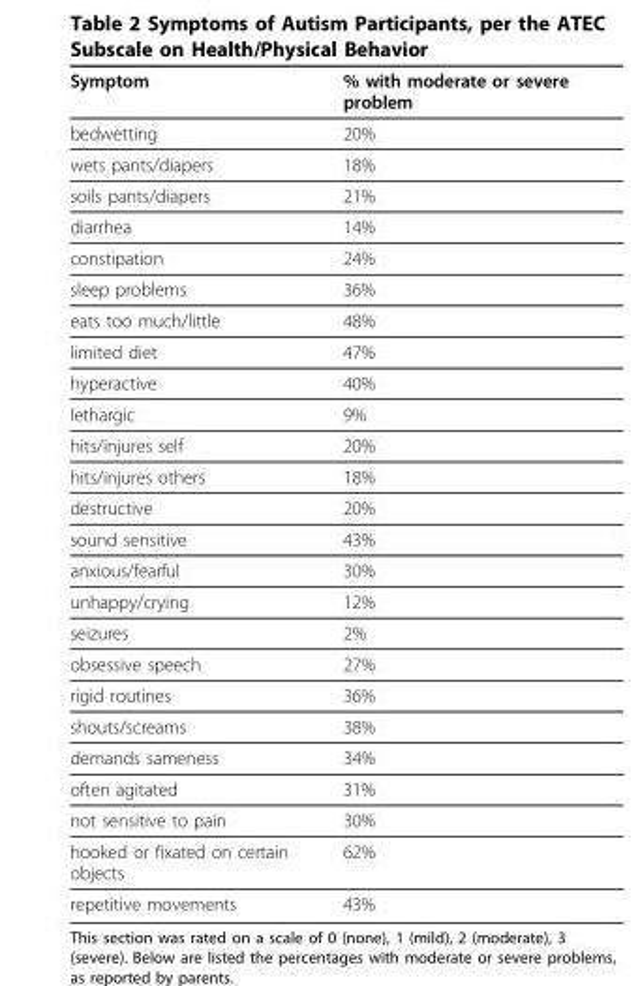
<table><thead><tr><td>Symptom</td><td>% with moderate or severe problem</td></tr></thead><tbody><tr><td>bedwetting</td><td>20%</td></tr><tr><td>wets pants/diapers</td><td>18%</td></tr><tr><td>soils pants/diapers</td><td>21%</td></tr><tr><td>diarrhea</td><td>14%</td></tr><tr><td>constipation</td><td>24%</td></tr><tr><td>sleep problems</td><td>36%</td></tr><tr><td>eats too much/little</td><td>48%</td></tr><tr><td>limited diet</td><td>47%</td></tr><tr><td>hyperactive</td><td>40%</td></tr><tr><td>lethargic</td><td>9%</td></tr><tr><td>hits/injures self</td><td>20%</td></tr><tr><td>hits/injures others</td><td>18%</td></tr><tr><td>destructive</td><td>20%</td></tr><tr><td>sound sensitive</td><td>43%</td></tr><tr><td>anxious/fearful</td><td>30%</td></tr><tr><td>unhappy/crying</td><td>12%</td></tr><tr><td>seizures</td><td>2%</td></tr><tr><td>obsessive speech</td><td>27%</td></tr><tr><td>rigid routines</td><td>36%</td></tr><tr><td>shouts/screams</td><td>38%</td></tr><tr><td>demands sameness</td><td>34%</td></tr><tr><td>often agitated</td><td>31%</td></tr><tr><td>not sensitive to pain</td><td>30%</td></tr><tr><td>hooked or fixated on certain objects</td><td>62%</td></tr><tr><td>repetitive movements</td><td>43%</td></tr></tbody></table>